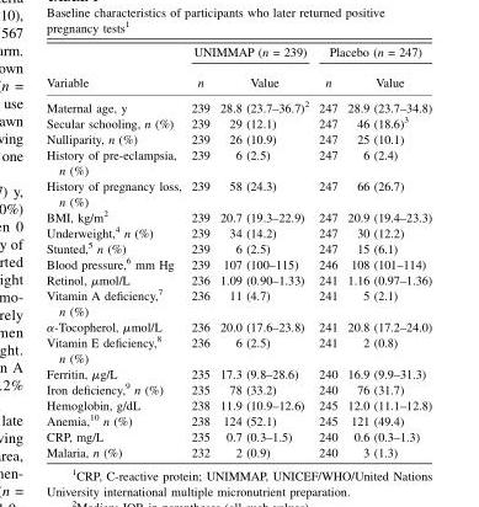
<table><thead><tr><td rowspan="2">Variable</td><td colspan="2">UNIMMAP (n = 239)</td><td colspan="2">Placebo (n = 247)</td></tr><tr><td>n</td><td>Value</td><td>n</td><td>Value</td></tr></thead><tbody><tr><td>Maternal age, y</td><td>239</td><td>28.8 (23.7–36.7)<sup>2</sup></td><td>247</td><td>28.9 (23.7–34.8)</td></tr><tr><td>Secular schooling, n (%)</td><td>239</td><td>29 (12.1)</td><td>247</td><td>46 (18.6)<sup>3</sup></td></tr><tr><td>Nulliparity, n (%)</td><td>239</td><td>26 (10.9)</td><td>247</td><td>25 (10.1)</td></tr><tr><td>History of pre-eclampsia, n (%)</td><td>239</td><td>6 (2.5)</td><td>247</td><td>6 (2.4)</td></tr><tr><td>History of pregnancy loss, n (%)</td><td>239</td><td>58 (24.3)</td><td>247</td><td>66 (26.7)</td></tr><tr><td>BMI, kg/m<sup>2</sup></td><td>239</td><td>20.7 (19.3–22.9)</td><td>247</td><td>20.9 (19.4–23.3)</td></tr><tr><td>Underweight,<sup>4</sup> n (%)</td><td>239</td><td>34 (14.2)</td><td>247</td><td>30 (12.2)</td></tr><tr><td>Stunted,<sup>5</sup> n (%)</td><td>239</td><td>6 (2.5)</td><td>247</td><td>15 (6.1)</td></tr><tr><td>Blood pressure,<sup>6</sup> mm Hg</td><td>239</td><td>107 (100–115)</td><td>246</td><td>108 (101–114)</td></tr><tr><td>Retinol, μmol/L</td><td>236</td><td>1.09 (0.90–1.33)</td><td>241</td><td>1.16 (0.97–1.36)</td></tr><tr><td>Vitamin A deficiency,<sup>7</sup> n (%)</td><td>236</td><td>11 (4.7)</td><td>241</td><td>5 (2.1)</td></tr><tr><td>α-Tocopherol, μmol/L</td><td>236</td><td>20.0 (17.6–23.8)</td><td>241</td><td>20.8 (17.2–24.0)</td></tr><tr><td>Vitamin E deficiency,<sup>8</sup> n (%)</td><td>236</td><td>6 (2.5)</td><td>241</td><td>2 (0.8)</td></tr><tr><td>Ferritin, μg/L</td><td>235</td><td>17.3 (9.8–28.6)</td><td>240</td><td>16.9 (9.9–31.3)</td></tr><tr><td>Iron deficiency,<sup>9</sup> n (%)</td><td>235</td><td>78 (33.2)</td><td>240</td><td>76 (31.7)</td></tr><tr><td>Hemoglobin, g/dL</td><td>238</td><td>11.9 (10.9–12.6)</td><td>245</td><td>12.0 (11.1–12.8)</td></tr><tr><td>Anemia,<sup>10</sup> n (%)</td><td>238</td><td>124 (52.1)</td><td>245</td><td>121 (49.4)</td></tr><tr><td>CRP, mg/L</td><td>235</td><td>0.7 (0.3–1.5)</td><td>240</td><td>0.6 (0.3–1.3)</td></tr><tr><td>Malaria, n (%)</td><td>232</td><td>2 (0.9)</td><td>240</td><td>3 (1.3)</td></tr></tbody></table>